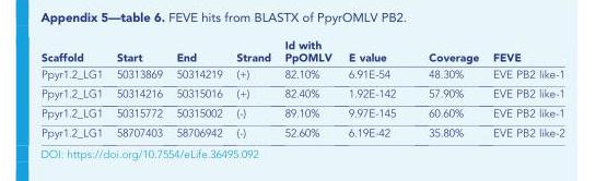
<table><thead><tr><td>Scaffold</td><td>Start</td><td>End</td><td>Strand</td><td>Id with PpOMLV</td><td>E value</td><td>Coverage</td><td>FEVE</td></tr></thead><tbody><tr><td>Ppyr1.2_LG1</td><td>50313869</td><td>50314219</td><td>(+)</td><td>82.10%</td><td>6.91E-54</td><td>48.30%</td><td>EVE PB2 like-1</td></tr><tr><td>Ppyr1.2_LG1</td><td>50314216</td><td>50315016</td><td>(+)</td><td>82.40%</td><td>1.92E-142</td><td>57.90%</td><td>EVE PB2 like-1</td></tr><tr><td>Ppyr1.2_LG1</td><td>50315772</td><td>50315002</td><td>(-)</td><td>89.10%</td><td>9.97E-145</td><td>60.60%</td><td>EVE PB2 like-1</td></tr><tr><td>Ppyr1.2_LG1</td><td>58707403</td><td>58706942</td><td>(-)</td><td>52.60%</td><td>6.19E-42</td><td>35.80%</td><td>EVE PB2 like-2</td></tr></tbody></table>